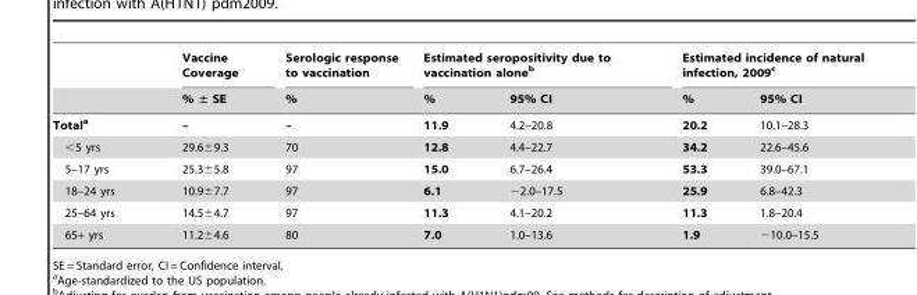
<table><thead><tr><td rowspan="2"></td><td rowspan="2">Vaccine Coverage % ± SE</td><td rowspan="2">Serologic response to vaccination %</td><td colspan="2">Estimated seropositivity due to vaccination alone<sup>b</sup></td><td colspan="2">Estimated incidence of natural infection, 2009<sup>c</sup></td></tr><tr><td>%</td><td>95% CI</td><td>%</td><td>95% CI</td></tr></thead><tbody><tr><td>Totala</td><td>–</td><td>–</td><td>11.9</td><td>4.2–20.8</td><td>20.2</td><td>10.1–28.3</td></tr><tr><td>&lt;5 yrs</td><td>29.6±9.3</td><td>70</td><td>12.8</td><td>4.4–22.7</td><td>34.2</td><td>22.6–45.6</td></tr><tr><td>5–17 yrs</td><td>25.3±5.8</td><td>97</td><td>15.0</td><td>6.7–26.4</td><td>53.3</td><td>39.0–67.1</td></tr><tr><td>18–24 yrs</td><td>10.9±7.7</td><td>97</td><td>6.1</td><td>−2.0–17.5</td><td>25.9</td><td>6.8–42.3</td></tr><tr><td>25–64 yrs</td><td>14.5±4.7</td><td>97</td><td>11.3</td><td>4.1–20.2</td><td>11.3</td><td>1.8–20.4</td></tr><tr><td>65+ yrs</td><td>11.2±4.6</td><td>80</td><td>7.0</td><td>1.0–13.6</td><td>1.9</td><td>−10.0–15.5</td></tr></tbody></table>